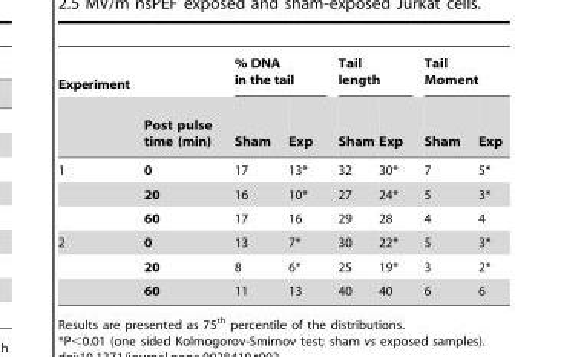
<table><thead><tr><td rowspan="2">Experiment</td><td rowspan="2">Post pulse time (min)</td><td colspan="2">% DNA in the tail</td><td colspan="2">Tail length</td><td colspan="2">Tail Moment</td></tr><tr><td>Sham</td><td>Exp</td><td>Sham</td><td>Exp</td><td>Sham</td><td>Exp</td></tr></thead><tbody><tr><td rowspan="3">1</td><td>0</td><td>17</td><td>13*</td><td>32</td><td>30*</td><td>7</td><td>5*</td></tr><tr><td>20</td><td>16</td><td>10*</td><td>27</td><td>24*</td><td>5</td><td>3*</td></tr><tr><td>60</td><td>17</td><td>16</td><td>29</td><td>28</td><td>4</td><td>4</td></tr><tr><td rowspan="3">2</td><td>0</td><td>13</td><td>7*</td><td>30</td><td>22*</td><td>5</td><td>3*</td></tr><tr><td>20</td><td>8</td><td>6*</td><td>25</td><td>19*</td><td>3</td><td>2*</td></tr><tr><td>60</td><td>11</td><td>13</td><td>40</td><td>40</td><td>6</td><td>6</td></tr></tbody></table>